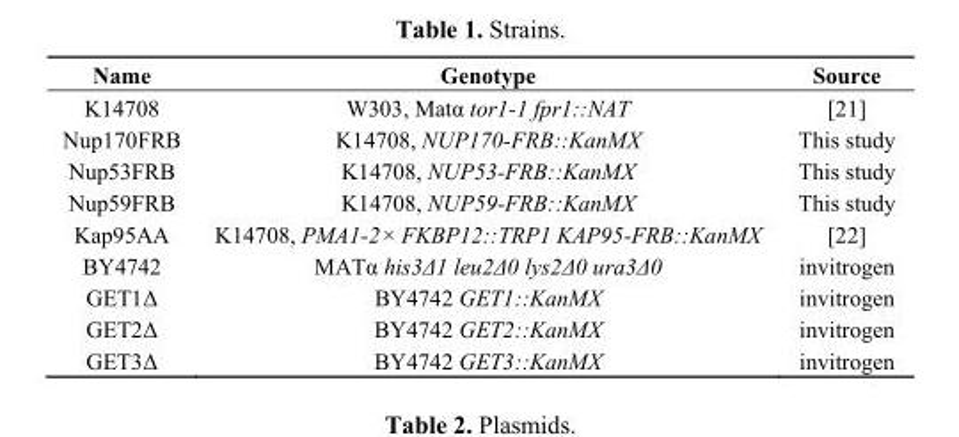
<table><thead><tr><td>Name</td><td>Genotype</td><td>Source</td></tr></thead><tbody><tr><td>K14708</td><td>W303, Matα tor1-1 fpr1::NAT</td><td>[21]</td></tr><tr><td>Nup170FRB</td><td>K14708, NUP170-FRB::KanMX</td><td>This study</td></tr><tr><td>Nup53FRB</td><td>K14708, NUP53-FRB::KanMX</td><td>This study</td></tr><tr><td>Nup59FRB</td><td>K14708, NUP59-FRB::KanMX</td><td>This study</td></tr><tr><td>Kap95AA</td><td>K14708, PMA1-2× FKBP12::TRP1 KAP95-FRB::KanMX</td><td>[22]</td></tr><tr><td>BY4742</td><td>MATα his3Δ1 leu2Δ0 lys2Δ0 ura3Δ0</td><td>invitrogen</td></tr><tr><td>GET1Δ</td><td>BY4742 GET1::KanMX</td><td>invitrogen</td></tr><tr><td>GET2Δ</td><td>BY4742 GET2::KanMX</td><td>invitrogen</td></tr><tr><td>GET3Δ</td><td>BY4742 GET3::KanMX</td><td>invitrogen</td></tr></tbody></table>